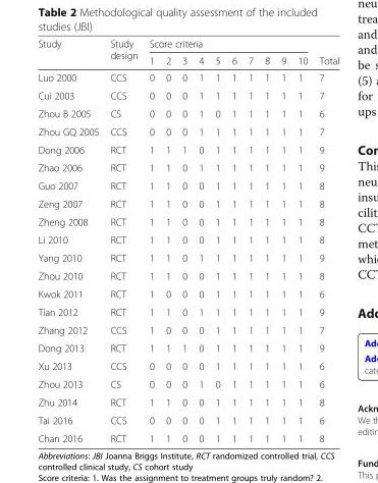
<table><thead><tr><td rowspan="2">Study</td><td rowspan="2">Study design</td><td colspan="10">Score criteria</td><td rowspan="2">Total</td></tr><tr><td>1</td><td>2</td><td>3</td><td>4</td><td>5</td><td>6</td><td>7</td><td>8</td><td>9</td><td>10</td></tr></thead><tbody><tr><td>Luo 2000</td><td>CCS</td><td>0</td><td>0</td><td>0</td><td>1</td><td>1</td><td>1</td><td>1</td><td>1</td><td>1</td><td>1</td><td>7</td></tr><tr><td>Cui 2003</td><td>CCS</td><td>0</td><td>0</td><td>0</td><td>1</td><td>1</td><td>1</td><td>1</td><td>1</td><td>1</td><td>1</td><td>7</td></tr><tr><td>Zhou B 2005</td><td>CS</td><td>0</td><td>0</td><td>0</td><td>1</td><td>0</td><td>1</td><td>1</td><td>1</td><td>1</td><td>1</td><td>6</td></tr><tr><td>Zhou GQ 2005</td><td>CCS</td><td>0</td><td>0</td><td>0</td><td>1</td><td>1</td><td>1</td><td>1</td><td>1</td><td>1</td><td>1</td><td>7</td></tr><tr><td>Dong 2006</td><td>RCT</td><td>1</td><td>1</td><td>1</td><td>0</td><td>1</td><td>1</td><td>1</td><td>1</td><td>1</td><td>1</td><td>9</td></tr><tr><td>Zhao 2006</td><td>RCT</td><td>1</td><td>1</td><td>0</td><td>1</td><td>1</td><td>1</td><td>1</td><td>1</td><td>1</td><td>1</td><td>9</td></tr><tr><td>Guo 2007</td><td>RCT</td><td>1</td><td>1</td><td>0</td><td>0</td><td>1</td><td>1</td><td>1</td><td>1</td><td>1</td><td>1</td><td>8</td></tr><tr><td>Zeng 2007</td><td>RCT</td><td>1</td><td>1</td><td>0</td><td>0</td><td>1</td><td>1</td><td>1</td><td>1</td><td>1</td><td>1</td><td>8</td></tr><tr><td>Zheng 2008</td><td>RCT</td><td>1</td><td>1</td><td>0</td><td>0</td><td>1</td><td>1</td><td>1</td><td>1</td><td>1</td><td>1</td><td>8</td></tr><tr><td>Li 2010</td><td>RCT</td><td>1</td><td>1</td><td>0</td><td>0</td><td>1</td><td>1</td><td>1</td><td>1</td><td>1</td><td>1</td><td>8</td></tr><tr><td>Yang 2010</td><td>RCT</td><td>1</td><td>1</td><td>0</td><td>1</td><td>1</td><td>1</td><td>1</td><td>1</td><td>1</td><td>1</td><td>9</td></tr><tr><td>Zhou 2010</td><td>RCT</td><td>1</td><td>1</td><td>0</td><td>0</td><td>1</td><td>1</td><td>1</td><td>1</td><td>1</td><td>1</td><td>8</td></tr><tr><td>Kwok 2011</td><td>RCT</td><td>1</td><td>0</td><td>0</td><td>0</td><td>1</td><td>1</td><td>1</td><td>1</td><td>1</td><td>1</td><td>6</td></tr><tr><td>Tian 2012</td><td>RCT</td><td>1</td><td>1</td><td>0</td><td>1</td><td>1</td><td>1</td><td>1</td><td>1</td><td>1</td><td>1</td><td>9</td></tr><tr><td>Zhang 2012</td><td>CCS</td><td>1</td><td>0</td><td>0</td><td>0</td><td>1</td><td>1</td><td>1</td><td>1</td><td>1</td><td>1</td><td>7</td></tr><tr><td>Dong 2013</td><td>RCT</td><td>1</td><td>1</td><td>1</td><td>0</td><td>1</td><td>1</td><td>1</td><td>1</td><td>1</td><td>1</td><td>9</td></tr><tr><td>Xu 2013</td><td>CCS</td><td>0</td><td>0</td><td>0</td><td>0</td><td>1</td><td>1</td><td>1</td><td>1</td><td>1</td><td>1</td><td>6</td></tr><tr><td>Zhou 2013</td><td>CS</td><td>0</td><td>0</td><td>0</td><td>1</td><td>0</td><td>1</td><td>1</td><td>1</td><td>1</td><td>1</td><td>6</td></tr><tr><td>Zhu 2014</td><td>RCT</td><td>1</td><td>1</td><td>0</td><td>0</td><td>1</td><td>1</td><td>1</td><td>1</td><td>1</td><td>1</td><td>8</td></tr><tr><td>Tai 2016</td><td>CCS</td><td>0</td><td>0</td><td>0</td><td>0</td><td>1</td><td>1</td><td>1</td><td>1</td><td>1</td><td>1</td><td>6</td></tr><tr><td>Chan 2016</td><td>RCT</td><td>1</td><td>1</td><td>0</td><td>0</td><td>1</td><td>1</td><td>1</td><td>1</td><td>1</td><td>1</td><td>8</td></tr></tbody></table>